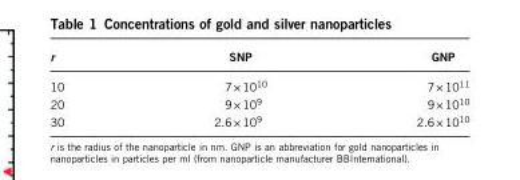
<table><thead><tr><td>r</td><td>SNP</td><td>GNP</td></tr></thead><tbody><tr><td>10</td><td>7 × 10<sup>10</sup></td><td>7 × 10<sup>11</sup></td></tr><tr><td>20</td><td>9 × 10<sup>9</sup></td><td>9 × 10<sup>10</sup></td></tr><tr><td>30</td><td>2.6× 10<sup>9</sup></td><td>2.6× 10<sup>10</sup></td></tr></tbody></table>